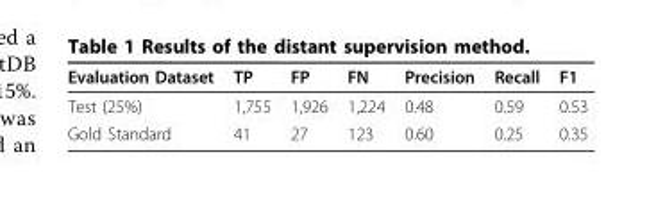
<table><thead><tr><td>Evaluation Dataset</td><td>TP</td><td>FP</td><td>FN</td><td>Precision</td><td>Recall</td><td>F1</td></tr></thead><tbody><tr><td>Test (25%)</td><td>1,755</td><td>1,926</td><td>1,224</td><td>0.48</td><td>0.59</td><td>0.53</td></tr><tr><td>Gold Standard</td><td>41</td><td>27</td><td>123</td><td>0.60</td><td>0.25</td><td>0.35</td></tr></tbody></table>